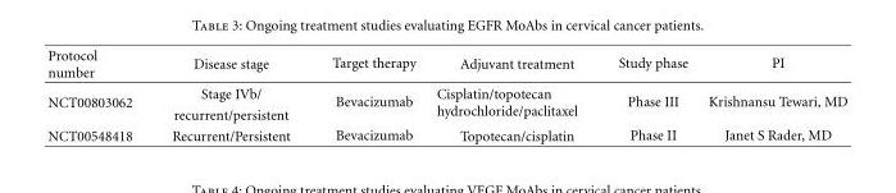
<table><thead><tr><td>Protocol number</td><td>Disease stage</td><td>Target therapy</td><td>Adjuvant treatment</td><td>Study phase</td><td>PI</td></tr></thead><tbody><tr><td rowspan="2">NCT00803062</td><td>Stage IVb/</td><td rowspan="2">Bevacizumab</td><td rowspan="2">Cisplatin/topotecan hydrochloride/paclitaxel</td><td rowspan="2">Phase III</td><td rowspan="2">Krishnansu Tewari, MD</td></tr><tr><td>recurrent/persistent</td></tr><tr><td>NCT00548418</td><td>Recurrent/Persistent</td><td>Bevacizumab</td><td>Topotecan/cisplatin</td><td>Phase II</td><td>Janet S Rader, MD</td></tr></tbody></table>